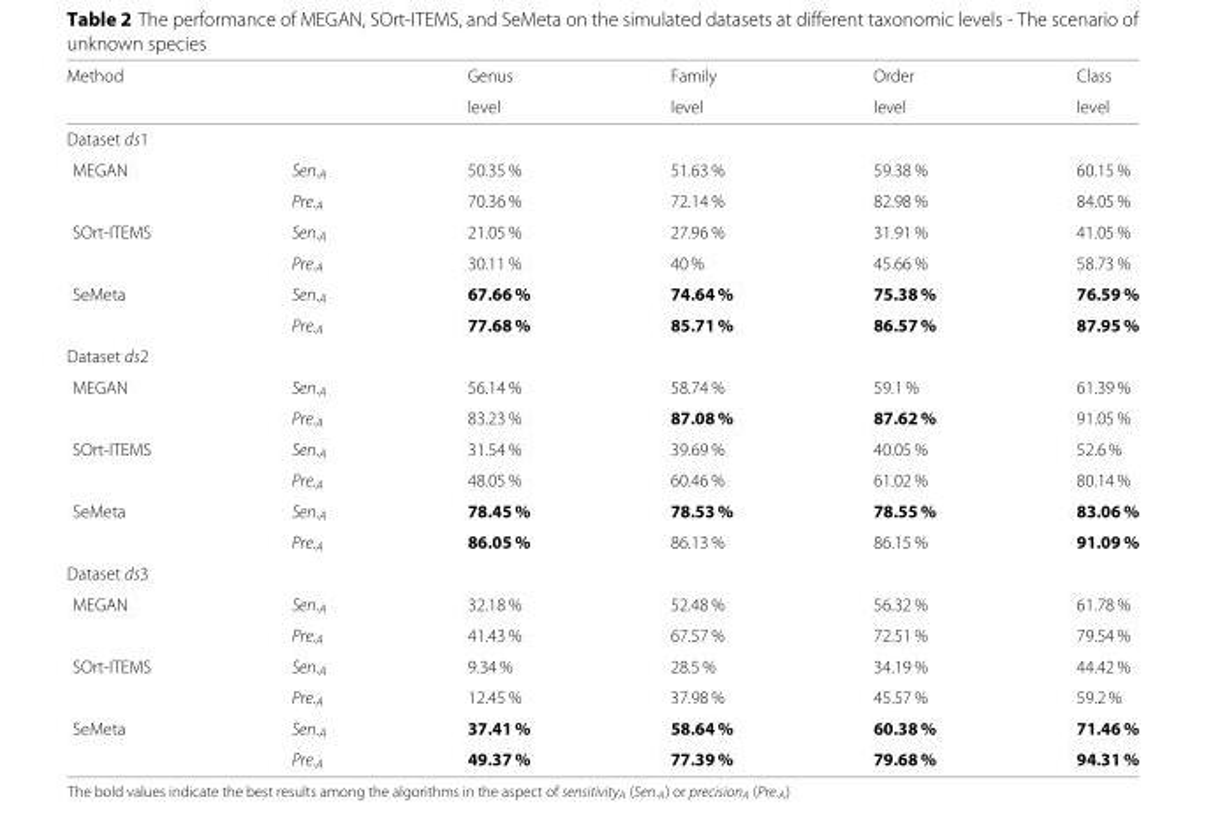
<table><thead><tr><td rowspan="2">Method</td><td rowspan="2"></td><td rowspan="2">Genus level</td><td rowspan="2">Family level</td><td rowspan="2">Order level</td><td rowspan="2">Class level</td></tr><tr></tr></thead><tbody><tr><td colspan="6">Dataset ds1</td></tr><tr><td rowspan="2">MEGAN</td><td>Sen.<sub>A</sub></td><td>50.35 %</td><td>51.63 %</td><td>59.38 %</td><td>60.15 %</td></tr><tr><td>Pre.<sub>A</sub></td><td>70.36 %</td><td>72.14 %</td><td>82.98 %</td><td>84.05 %</td></tr><tr><td rowspan="2">SOrt-ITEMS</td><td>Sen.<sub>A</sub></td><td>21.05 %</td><td>27.96 %</td><td>31.91 %</td><td>41.05 %</td></tr><tr><td>Pre.<sub>A</sub></td><td>30.11 %</td><td>40 %</td><td>45.66 %</td><td>58.73 %</td></tr><tr><td rowspan="2">SeMeta</td><td>Sen.<sub>A</sub></td><td>67.66 %</td><td>74.64 %</td><td>75.38 %</td><td>76.59 %</td></tr><tr><td>Pre.<sub>A</sub></td><td>77.68 %</td><td>85.71 %</td><td>86.57 %</td><td>87.95 %</td></tr><tr><td colspan="6">Dataset ds2</td></tr><tr><td rowspan="2">MEGAN</td><td>Sen.<sub>A</sub></td><td>56.14 %</td><td>58.74 %</td><td>59.1 %</td><td>61.39 %</td></tr><tr><td>Pre.<sub>A</sub></td><td>83.23 %</td><td>87.08 %</td><td>87.62 %</td><td>91.05 %</td></tr><tr><td rowspan="2">SOrt-ITEMS</td><td>Sen.<sub>A</sub></td><td>31.54 %</td><td>39.69 %</td><td>40.05 %</td><td>52.6 %</td></tr><tr><td>Pre.<sub>A</sub></td><td>48.05 %</td><td>60.46 %</td><td>61.02 %</td><td>80.14 %</td></tr><tr><td rowspan="2">SeMeta</td><td>Sen.<sub>A</sub></td><td>78.45 %</td><td>78.53 %</td><td>78.55 %</td><td>83.06 %</td></tr><tr><td>Pre.<sub>A</sub></td><td>86.05 %</td><td>86.13 %</td><td>86.15 %</td><td>91.09 %</td></tr><tr><td colspan="6">Dataset ds3</td></tr><tr><td rowspan="2">MEGAN</td><td>Sen.<sub>A</sub></td><td>32.18 %</td><td>52.48 %</td><td>56.32 %</td><td>61.78 %</td></tr><tr><td>Pre.<sub>A</sub></td><td>41.43 %</td><td>67.57 %</td><td>72.51 %</td><td>79.54 %</td></tr><tr><td rowspan="2">SOrt-ITEMS</td><td>Sen.<sub>A</sub></td><td>9.34 %</td><td>28.5 %</td><td>34.19 %</td><td>44.42 %</td></tr><tr><td>Pre.<sub>A</sub></td><td>12.45 %</td><td>37.98 %</td><td>45.57 %</td><td>59.2 %</td></tr><tr><td rowspan="2">SeMeta</td><td>Sen.<sub>A</sub></td><td>37.41 %</td><td>58.64 %</td><td>60.38 %</td><td>71.46 %</td></tr><tr><td>Pre.<sub>A</sub></td><td>49.37 %</td><td>77.39 %</td><td>79.68 %</td><td>94.31 %</td></tr></tbody></table>